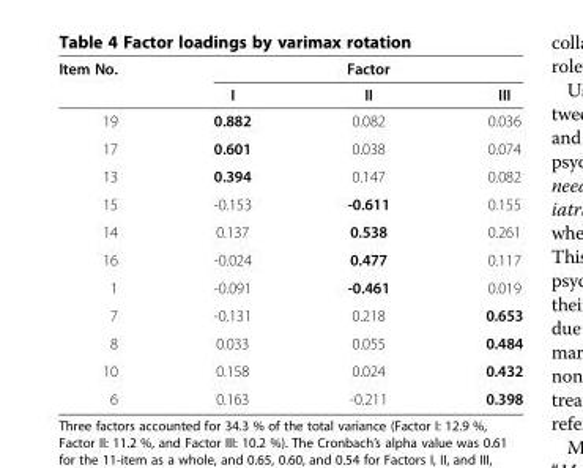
<table><thead><tr><td rowspan="2">Item No.</td><td colspan="3">Factor</td></tr><tr><td>I</td><td>II</td><td>III</td></tr></thead><tbody><tr><td>19</td><td>0.882</td><td>0.082</td><td>0.036</td></tr><tr><td>17</td><td>0.601</td><td>0.038</td><td>0.074</td></tr><tr><td>13</td><td>0.394</td><td>0.147</td><td>0.082</td></tr><tr><td>15</td><td>-0.153</td><td>-0.611</td><td>0.155</td></tr><tr><td>14</td><td>0.137</td><td>0.538</td><td>0.261</td></tr><tr><td>16</td><td>-0.024</td><td>0.477</td><td>0.117</td></tr><tr><td>1</td><td>-0.091</td><td>-0.461</td><td>0.019</td></tr><tr><td>7</td><td>-0.131</td><td>0.218</td><td>0.653</td></tr><tr><td>8</td><td>0.033</td><td>0.055</td><td>0.484</td></tr><tr><td>10</td><td>0.158</td><td>0.024</td><td>0.432</td></tr><tr><td>6</td><td>0.163</td><td>-0.211</td><td>0.398</td></tr></tbody></table>